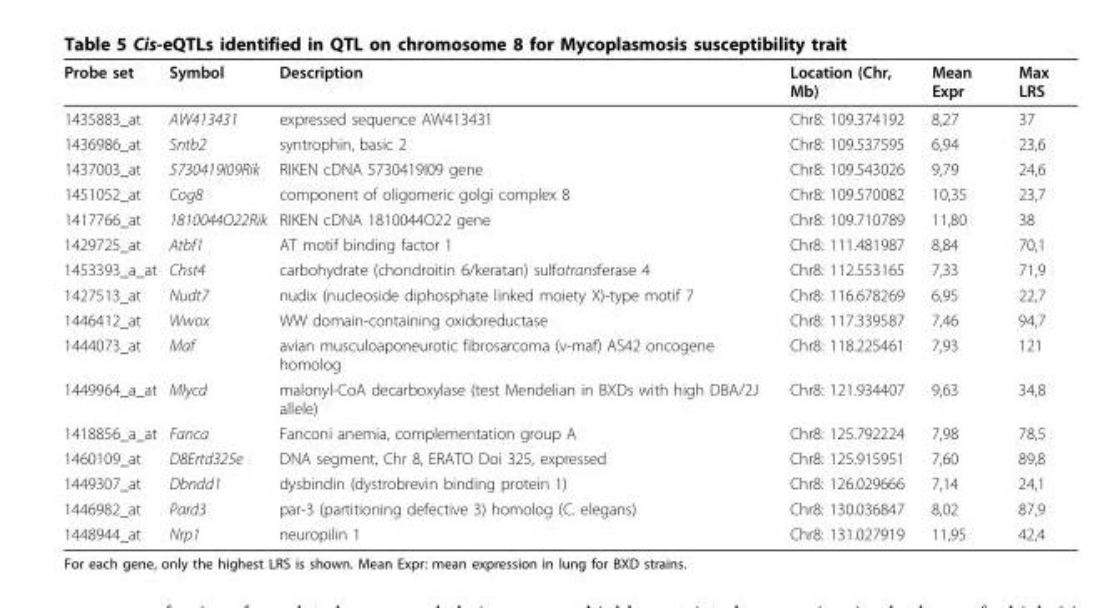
<table><thead><tr><td>Probe set</td><td>Symbol</td><td>Description</td><td>Location (Chr, Mb)</td><td>Mean Expr</td><td>Max LRS</td></tr></thead><tbody><tr><td>1435883_at</td><td>AW413431</td><td>expressed sequence AW413431</td><td>Chr8: 109.374192</td><td>8,27</td><td>37</td></tr><tr><td>1436986_at</td><td>Sntb2</td><td>syntrophin, basic 2</td><td>Chr8: 109.537595</td><td>6,94</td><td>23,6</td></tr><tr><td>1437003_at</td><td>5730419I09Rik</td><td>RIKEN cDNA 5730419I09 gene</td><td>Chr8: 109.543026</td><td>9,79</td><td>24,6</td></tr><tr><td>1451052_at</td><td>Cog8</td><td>component of oligomeric golgi complex 8</td><td>Chr8: 109.570082</td><td>10,35</td><td>23,7</td></tr><tr><td>1417766_at</td><td>1810044O22Rik</td><td>RIKEN cDNA 1810044O22 gene</td><td>Chr8: 109.710789</td><td>11,80</td><td>38</td></tr><tr><td>1429725_at</td><td>Atbf1</td><td>AT motif binding factor 1</td><td>Chr8: 111.481987</td><td>8,84</td><td>70,1</td></tr><tr><td>1453393_a_at</td><td>Chst4</td><td>carbohydrate (chondroitin 6/keratan) sulfotransferase 4</td><td>Chr8: 112.553165</td><td>7,33</td><td>71,9</td></tr><tr><td>1427513_at</td><td>Nudt7</td><td>nudix (nucleoside diphosphate linked moiety X)-type motif 7</td><td>Chr8: 116.678269</td><td>6,95</td><td>22,7</td></tr><tr><td>1446412_at</td><td>Wwox</td><td>WW domain-containing oxidoreductase</td><td>Chr8: 117.339587</td><td>7,46</td><td>94,7</td></tr><tr><td>1444073_at</td><td>Maf</td><td>avian musculoaponeurotic fibrosarcoma (v-maf) AS42 oncogene homolog</td><td>Chr8: 118.225461</td><td>7,93</td><td>121</td></tr><tr><td>1449964_a_at</td><td>Mlycd</td><td>malonyl-CoA decarboxylase (test Mendelian in BXDs with high DBA/2J allele)</td><td>Chr8: 121.934407</td><td>9,63</td><td>34,8</td></tr><tr><td>1418856_a_at</td><td>Fanca</td><td>Fanconi anemia, complementation group A</td><td>Chr8: 125.792224</td><td>7,98</td><td>78,5</td></tr><tr><td>1460109_at</td><td>D8Ertd325e</td><td>DNA segment, Chr 8, ERATO Doi 325, expressed</td><td>Chr8: 125.915951</td><td>7,60</td><td>89,8</td></tr><tr><td>1449307_at</td><td>Dbndd1</td><td>dysbindin (dystrobrevin binding protein 1)</td><td>Chr8: 126.029666</td><td>7,14</td><td>24,1</td></tr><tr><td>1446982_at</td><td>Pard3</td><td>par-3 (partitioning defective 3) homolog (C. elegans)</td><td>Chr8: 130.036847</td><td>8,02</td><td>87,9</td></tr><tr><td>1448944_at</td><td>Nrp1</td><td>neuropilin 1</td><td>Chr8: 131.027919</td><td>11,95</td><td>42,4</td></tr></tbody></table>